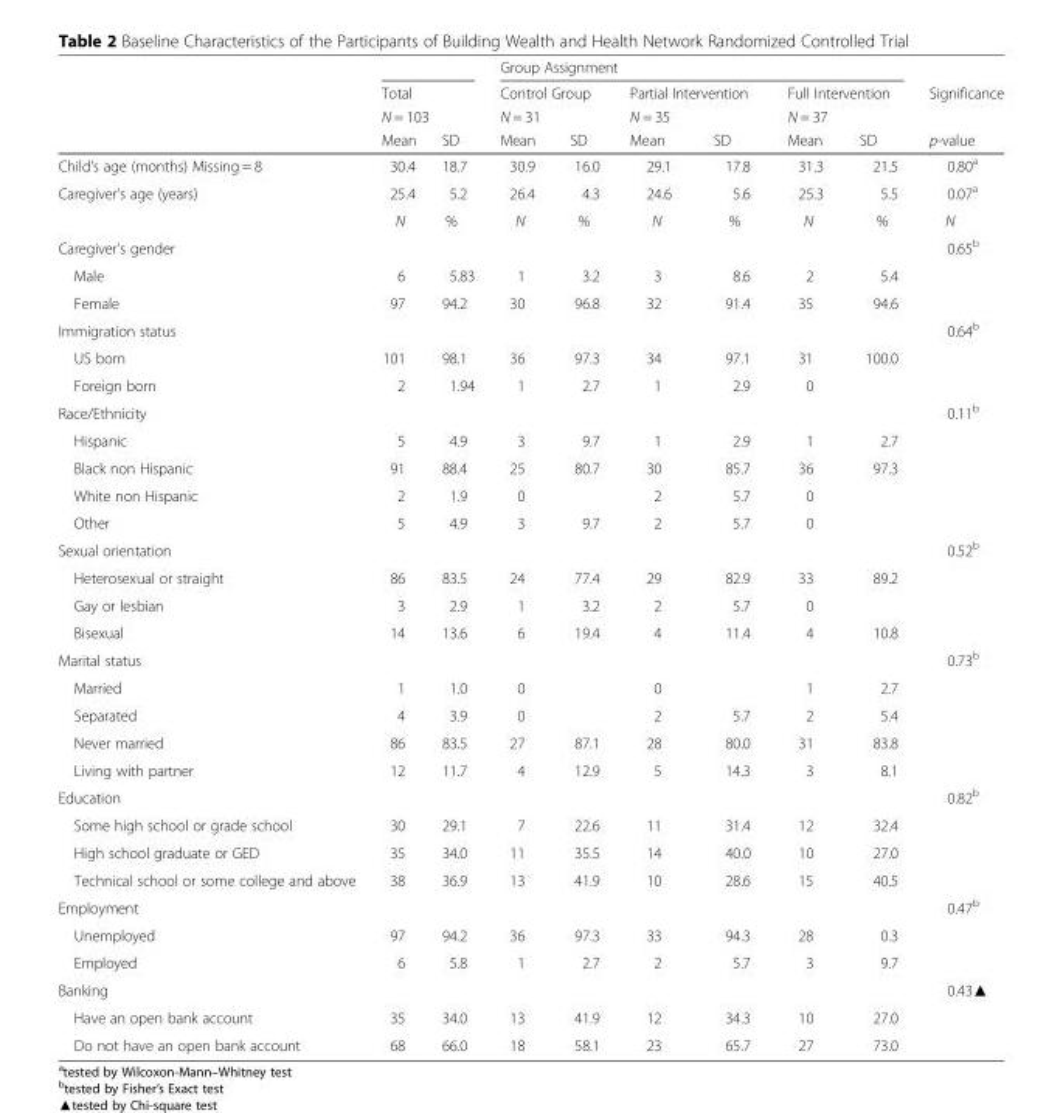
<table><thead><tr><td rowspan="4"></td><td></td><td></td><td colspan="6">Group Assignment</td><td rowspan="4">Significance p-value</td></tr><tr><td rowspan="2" colspan="2">Total N = 103</td><td rowspan="2" colspan="2">Control Group N = 31</td><td rowspan="2" colspan="2">Partial Intervention N = 35</td><td rowspan="2" colspan="2">Full Intervention N = 37</td></tr><tr></tr><tr><td>Mean</td><td>SD</td><td>Mean</td><td>SD</td><td>Mean</td><td>SD</td><td>Mean</td><td>SD</td></tr></thead><tbody><tr><td>Child’s age (months) Missing = 8</td><td>30.4</td><td>18.7</td><td>30.9</td><td>16.0</td><td>29.1</td><td>17.8</td><td>31.3</td><td>21.5</td><td>0.80<sup>a</sup></td></tr><tr><td rowspan="2">Caregiver’s age (years)</td><td>25.4</td><td>5.2</td><td>26.4</td><td>4.3</td><td>24.6</td><td>5.6</td><td>25.3</td><td>5.5</td><td>0.07<sup>a</sup></td></tr><tr><td>N</td><td>%</td><td>N</td><td>%</td><td>N</td><td>%</td><td>N</td><td>%</td><td>N</td></tr><tr><td>Caregiver’s gender</td><td></td><td></td><td></td><td></td><td></td><td></td><td></td><td></td><td>0.65<sup>b</sup></td></tr><tr><td>Male</td><td>6</td><td>5.83</td><td>1</td><td>3.2</td><td>3</td><td>8.6</td><td>2</td><td>5.4</td><td></td></tr><tr><td>Female</td><td>97</td><td>94.2</td><td>30</td><td>96.8</td><td>32</td><td>91.4</td><td>35</td><td>94.6</td><td></td></tr><tr><td>Immigration status</td><td></td><td></td><td></td><td></td><td></td><td></td><td></td><td></td><td>0.64<sup>b</sup></td></tr><tr><td>US born</td><td>101</td><td>98.1</td><td>36</td><td>97.3</td><td>34</td><td>97.1</td><td>31</td><td>100.0</td><td></td></tr><tr><td>Foreign born</td><td>2</td><td>1.94</td><td>1</td><td>2.7</td><td>1</td><td>2.9</td><td>0</td><td></td><td></td></tr><tr><td>Race/Ethnicity</td><td></td><td></td><td></td><td></td><td></td><td></td><td></td><td></td><td>0.11<sup>b</sup></td></tr><tr><td>Hispanic</td><td>5</td><td>4.9</td><td>3</td><td>9.7</td><td>1</td><td>2.9</td><td>1</td><td>2.7</td><td></td></tr><tr><td>Black non Hispanic</td><td>91</td><td>88.4</td><td>25</td><td>80.7</td><td>30</td><td>85.7</td><td>36</td><td>97.3</td><td></td></tr><tr><td>White non Hispanic</td><td>2</td><td>1.9</td><td>0</td><td></td><td>2</td><td>5.7</td><td>0</td><td></td><td></td></tr><tr><td>Other</td><td>5</td><td>4.9</td><td>3</td><td>9.7</td><td>2</td><td>5.7</td><td>0</td><td></td><td></td></tr><tr><td>Sexual orientation</td><td></td><td></td><td></td><td></td><td></td><td></td><td></td><td></td><td>0.52<sup>b</sup></td></tr><tr><td>Heterosexual or straight</td><td>86</td><td>83.5</td><td>24</td><td>77.4</td><td>29</td><td>82.9</td><td>33</td><td>89.2</td><td></td></tr><tr><td>Gay or lesbian</td><td>3</td><td>2.9</td><td>1</td><td>3.2</td><td>2</td><td>5.7</td><td>0</td><td></td><td></td></tr><tr><td>Bisexual</td><td>14</td><td>13.6</td><td>6</td><td>19.4</td><td>4</td><td>11.4</td><td>4</td><td>10.8</td><td></td></tr><tr><td>Marital status</td><td></td><td></td><td></td><td></td><td></td><td></td><td></td><td></td><td>0.73<sup>b</sup></td></tr><tr><td>Married</td><td>1</td><td>1.0</td><td>0</td><td></td><td>0</td><td></td><td>1</td><td>2.7</td><td></td></tr><tr><td>Separated</td><td>4</td><td>3.9</td><td>0</td><td></td><td>2</td><td>5.7</td><td>2</td><td>5.4</td><td></td></tr><tr><td>Never married</td><td>86</td><td>83.5</td><td>27</td><td>87.1</td><td>28</td><td>80.0</td><td>31</td><td>83.8</td><td></td></tr><tr><td>Living with partner</td><td>12</td><td>11.7</td><td>4</td><td>12.9</td><td>5</td><td>14.3</td><td>3</td><td>8.1</td><td></td></tr><tr><td>Education</td><td></td><td></td><td></td><td></td><td></td><td></td><td></td><td></td><td>0.82<sup>b</sup></td></tr><tr><td>Some high school or grade school</td><td>30</td><td>29.1</td><td>7</td><td>22.6</td><td>11</td><td>31.4</td><td>12</td><td>32.4</td><td></td></tr><tr><td>High school graduate or GED</td><td>35</td><td>34.0</td><td>11</td><td>35.5</td><td>14</td><td>40.0</td><td>10</td><td>27.0</td><td></td></tr><tr><td>Technical school or some college and above</td><td>38</td><td>36.9</td><td>13</td><td>41.9</td><td>10</td><td>28.6</td><td>15</td><td>40.5</td><td></td></tr><tr><td>Employment</td><td></td><td></td><td></td><td></td><td></td><td></td><td></td><td></td><td>0.47<sup>b</sup></td></tr><tr><td>Unemployed</td><td>97</td><td>94.2</td><td>36</td><td>97.3</td><td>33</td><td>94.3</td><td>28</td><td>0.3</td><td></td></tr><tr><td>Employed</td><td>6</td><td>5.8</td><td>1</td><td>2.7</td><td>2</td><td>5.7</td><td>3</td><td>9.7</td><td></td></tr><tr><td>Banking</td><td></td><td></td><td></td><td></td><td></td><td></td><td></td><td></td><td>0.43▲</td></tr><tr><td>Have an open bank account</td><td>35</td><td>34.0</td><td>13</td><td>41.9</td><td>12</td><td>34.3</td><td>10</td><td>27.0</td><td></td></tr><tr><td>Do not have an open bank account</td><td>68</td><td>66.0</td><td>18</td><td>58.1</td><td>23</td><td>65.7</td><td>27</td><td>73.0</td><td></td></tr></tbody></table>